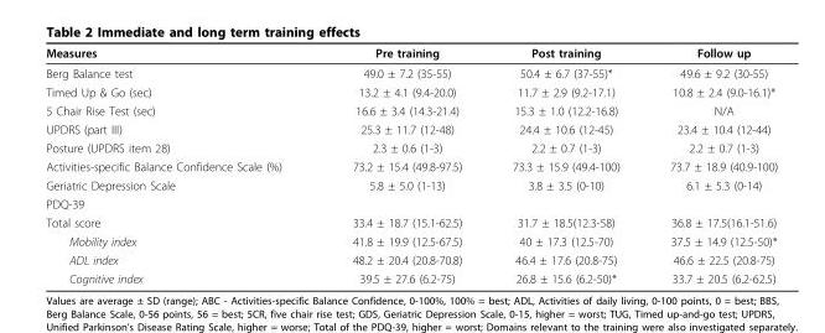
<table><thead><tr><td>Measures</td><td>Pre training</td><td>Post training</td><td>Follow up</td></tr></thead><tbody><tr><td>Berg Balance test</td><td>49.0 ± 7.2 (35-55)</td><td>50.4 ± 6.7 (37-55)*</td><td>49.6 ± 9.2 (30-55)</td></tr><tr><td>Timed Up &amp; Go (sec)</td><td>13.2 ± 4.1 (9.4-20.0)</td><td>11.7 ± 2.9 (9.2-17.1)</td><td>10.8 ± 2.4 (9.0-16.1)*</td></tr><tr><td>5 Chair Rise Test (sec)</td><td>16.6 ± 3.4 (14.3-21.4)</td><td>15.3 ± 1.0 (12.2-16.8)</td><td>N/A</td></tr><tr><td>UPDRS (part III)</td><td>25.3 ± 11.7 (12-48)</td><td>24.4 ± 10.6 (12-45)</td><td>23.4 ± 10.4 (12-44)</td></tr><tr><td>Posture (UPDRS item 28)</td><td>2.3 ± 0.6 (1-3)</td><td>2.2 ± 0.7 (1-3)</td><td>2.2 ± 0.7 (1-3)</td></tr><tr><td>Activities-specific Balance Confidence Scale (%)</td><td>73.2 ± 15.4 (49.8-97.5)</td><td>73.3 ± 15.9 (49.4-100)</td><td>73.7 ± 18.9 (40.9-100)</td></tr><tr><td>Geriatric Depression Scale</td><td>5.8 ± 5.0 (1-13)</td><td>3.8 ± 3.5 (0-10)</td><td>6.1 ± 5.3 (0-14)</td></tr><tr><td colspan="4">PDQ-39</td></tr><tr><td>Total score</td><td>33.4 ± 18.7 (15.1-62.5)</td><td>31.7 ± 18.5(12.3-58)</td><td>36.8 ± 17.5(16.1-51.6)</td></tr><tr><td>Mobility index</td><td>41.8 ± 19.9 (12.5-67.5)</td><td>40 ± 17.3 (12.5-70)</td><td>37.5 ± 14.9 (12.5-50)*</td></tr><tr><td>ADL index</td><td>48.2 ± 20.4 (20.8-70.8)</td><td>46.4 ± 17.6 (20.8-75)</td><td>46.6 ± 22.5 (20.8-75)</td></tr><tr><td>Cognitive index</td><td>39.5 ± 27.6 (6.2-75)</td><td>26.8 ± 15.6 (6.2-50)*</td><td>33.7 ± 20.5 (6.2-62.5)</td></tr></tbody></table>